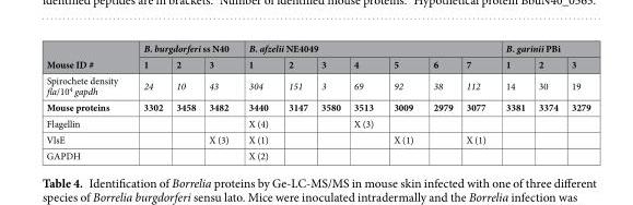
<table><thead><tr><td rowspan="2">Mouse ID #</td><td colspan="3">B. burgdorferi ss N40</td><td colspan="7">B. afzelii NE4049</td><td colspan="3">B. garinii PBi</td></tr><tr><td>1</td><td>2</td><td>3</td><td>1</td><td>2</td><td>3</td><td>4</td><td>5</td><td>6</td><td>7</td><td>1</td><td>2</td><td>3</td></tr></thead><tbody><tr><td>Spirochete density fla/10<sup>4</sup> gapdh</td><td>24</td><td>10</td><td>43</td><td>304</td><td>151</td><td>3</td><td>69</td><td>92</td><td>38</td><td>112</td><td>14</td><td>30</td><td>19</td></tr><tr><td>Mouse proteins</td><td>3302</td><td>3458</td><td>3482</td><td>3440</td><td>3147</td><td>3580</td><td>3513</td><td>3009</td><td>2979</td><td>3077</td><td>3381</td><td>3374</td><td>3279</td></tr><tr><td>Flagellin</td><td></td><td></td><td></td><td>X (4)</td><td></td><td></td><td>X (3)</td><td></td><td></td><td></td><td></td><td></td><td></td></tr><tr><td>VlsE</td><td></td><td></td><td>X (3)</td><td>X (1)</td><td></td><td></td><td></td><td>X (1)</td><td></td><td>X (1)</td><td></td><td></td><td></td></tr><tr><td>GAPDH</td><td></td><td></td><td></td><td>X (2)</td><td></td><td></td><td></td><td></td><td></td><td></td><td></td><td></td><td></td></tr></tbody></table>